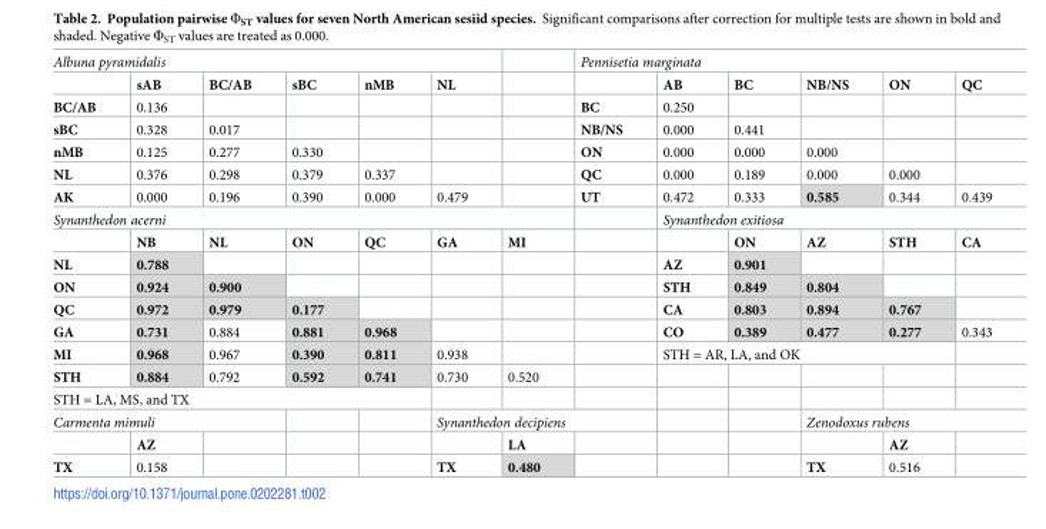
<table><tbody><tr><td colspan="6">Albuna pyramidalis</td><td></td><td colspan="6">Pennisetia marginata</td></tr><tr><td></td><td>sAB</td><td>BC/AB</td><td>sBC</td><td>nMB</td><td>NL</td><td></td><td></td><td>AB</td><td>BC</td><td>NB/NS</td><td>ON</td><td>QC</td></tr><tr><td>BC/AB</td><td>0.136</td><td></td><td></td><td></td><td></td><td></td><td>BC</td><td>0.250</td><td></td><td></td><td></td><td></td></tr><tr><td>sBC</td><td>0.328</td><td>0.017</td><td></td><td></td><td></td><td></td><td>NB/NS</td><td>0.000</td><td>0.441</td><td></td><td></td><td></td></tr><tr><td>nMB</td><td>0.125</td><td>0.277</td><td>0.330</td><td></td><td></td><td></td><td>ON</td><td>0.000</td><td>0.000</td><td>0.000</td><td></td><td></td></tr><tr><td>NL</td><td>0.376</td><td>0.298</td><td>0.379</td><td>0.337</td><td></td><td></td><td>QC</td><td>0.000</td><td>0.189</td><td>0.000</td><td>0.000</td><td></td></tr><tr><td>AK</td><td>0.000</td><td>0.196</td><td>0.390</td><td>0.000</td><td>0.479</td><td></td><td>UT</td><td>0.472</td><td>0.333</td><td>0.585</td><td>0.344</td><td>0.439</td></tr><tr><td colspan="7">Synanthedon acerni</td><td></td><td colspan="5">Synanthedon exitiosa</td></tr><tr><td></td><td>NB</td><td>NL</td><td>ON</td><td>QC</td><td>GA</td><td>MI</td><td></td><td></td><td>ON</td><td>AZ</td><td>STH</td><td>CA</td></tr><tr><td>NL</td><td>0.788</td><td></td><td></td><td></td><td></td><td></td><td></td><td>AZ</td><td>0.901</td><td></td><td></td><td></td></tr><tr><td>ON</td><td>0.924</td><td>0.900</td><td></td><td></td><td></td><td></td><td></td><td>STH</td><td>0.849</td><td>0.804</td><td></td><td></td></tr><tr><td>QC</td><td>0.972</td><td>0.979</td><td>0.177</td><td></td><td></td><td></td><td></td><td>CA</td><td>0.803</td><td>0.894</td><td>0.767</td><td></td></tr><tr><td>GA</td><td>0.731</td><td>0.884</td><td>0.881</td><td>0.968</td><td></td><td></td><td></td><td>CO</td><td>0.389</td><td>0.477</td><td>0.277</td><td>0.343</td></tr><tr><td>MI</td><td>0.968</td><td>0.967</td><td>0.390</td><td>0.811</td><td>0.938</td><td></td><td></td><td colspan="4">STH = AR, LA, and OK</td><td></td></tr><tr><td>STH</td><td>0.884</td><td>0.792</td><td>0.592</td><td>0.741</td><td>0.730</td><td>0.520</td><td></td><td></td><td></td><td></td><td></td><td></td></tr><tr><td colspan="13">STH = LA, MS, and TX</td></tr><tr><td colspan="3">Carmenta mimuli</td><td></td><td></td><td colspan="3">Synanthedon decipiens</td><td></td><td></td><td colspan="3">Zenodoxus rubens</td></tr><tr><td></td><td>AZ</td><td></td><td></td><td></td><td></td><td>LA</td><td></td><td></td><td></td><td></td><td>AZ</td><td></td></tr><tr><td>TX</td><td>0.158</td><td></td><td></td><td></td><td>TX</td><td>0.480</td><td></td><td></td><td></td><td>TX</td><td>0.516</td><td></td></tr></tbody></table>